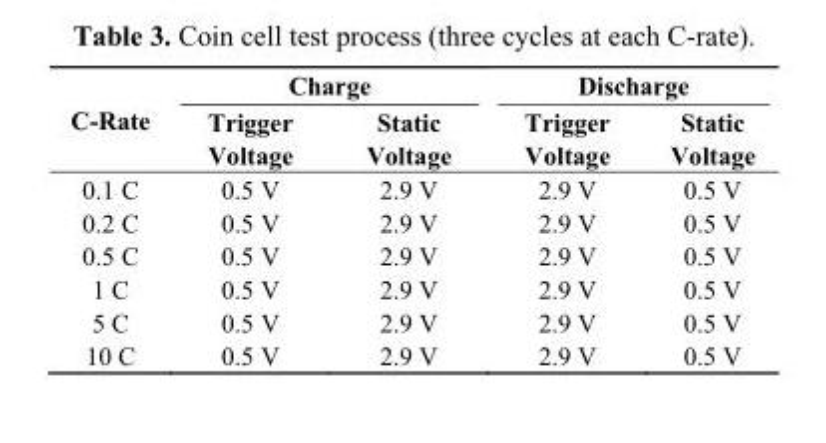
<table><thead><tr><td rowspan="2">C-Rate</td><td colspan="2">Charge</td><td colspan="2">Discharge</td></tr><tr><td>Trigger Voltage</td><td>Static Voltage</td><td>Trigger Voltage</td><td>Static Voltage</td></tr></thead><tbody><tr><td>0.1 C</td><td>0.5 V</td><td>2.9 V</td><td>2.9 V</td><td>0.5 V</td></tr><tr><td>0.2 C</td><td>0.5 V</td><td>2.9 V</td><td>2.9 V</td><td>0.5 V</td></tr><tr><td>0.5 C</td><td>0.5 V</td><td>2.9 V</td><td>2.9 V</td><td>0.5 V</td></tr><tr><td>1 C</td><td>0.5 V</td><td>2.9 V</td><td>2.9 V</td><td>0.5 V</td></tr><tr><td>5 C</td><td>0.5 V</td><td>2.9 V</td><td>2.9 V</td><td>0.5 V</td></tr><tr><td>10 C</td><td>0.5 V</td><td>2.9 V</td><td>2.9 V</td><td>0.5 V</td></tr></tbody></table>